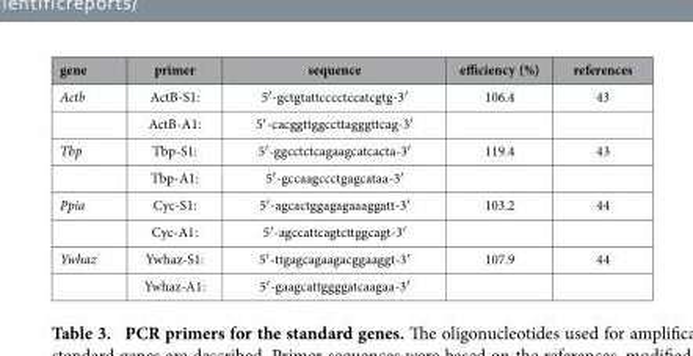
<table><thead><tr><td>gene</td><td>primer</td><td>sequence</td><td>efficiency (%)</td><td>references</td></tr></thead><tbody><tr><td rowspan="2">Actb</td><td>ActB-S1:</td><td>5′ -gctgtattcccctccatcgtg-3′</td><td>106.4</td><td>43</td></tr><tr><td>ActB-A1:</td><td>5′ -cacggttggccttagggttcag-3′</td><td></td><td></td></tr><tr><td rowspan="2">Tbp</td><td>Tbp-S1:</td><td>5′ -ggcctctcagaagcatcacta-3′</td><td>119.4</td><td>43</td></tr><tr><td>Tbp-A1:</td><td>5′ -gccaagccctgagcataa-3′</td><td></td><td></td></tr><tr><td rowspan="2">Ppia</td><td>Cyc-S1:</td><td>5′ -agcactggagagaaaggatt-3′</td><td>103.2</td><td>44</td></tr><tr><td>Cyc-A1:</td><td>5′ -agccattcagtcttggcagt-3′</td><td></td><td></td></tr><tr><td rowspan="2">Ywhaz</td><td>Ywhaz-S1:</td><td>5′ -ttgagcagaagacggaaggt-3′</td><td>107.9</td><td>44</td></tr><tr><td>Ywhaz-A1:</td><td>5′ -gaagcattggggatcaagaa-3′</td><td></td><td></td></tr></tbody></table>